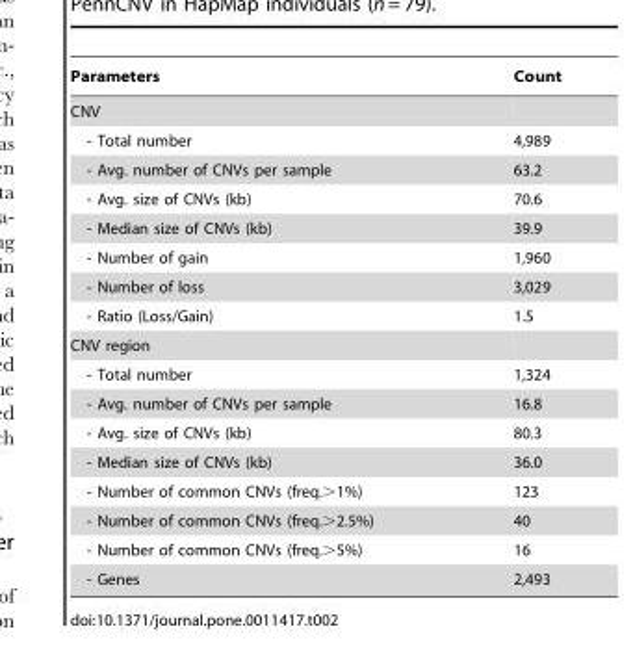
<table><thead><tr><td>Parameters</td><td>Count</td></tr></thead><tbody><tr><td colspan="2">CNV</td></tr><tr><td>- Total number</td><td>4,989</td></tr><tr><td>- Avg. number of CNVs per sample</td><td>63.2</td></tr><tr><td>- Avg. size of CNVs (kb)</td><td>70.6</td></tr><tr><td>- Median size of CNVs (kb)</td><td>39.9</td></tr><tr><td>- Number of gain</td><td>1,960</td></tr><tr><td>- Number of loss</td><td>3,029</td></tr><tr><td>- Ratio (Loss/Gain)</td><td>1.5</td></tr><tr><td colspan="2">CNV region</td></tr><tr><td>- Total number</td><td>1,324</td></tr><tr><td>- Avg. number of CNVs per sample</td><td>16.8</td></tr><tr><td>- Avg. size of CNVs (kb)</td><td>80.3</td></tr><tr><td>- Median size of CNVs (kb)</td><td>36.0</td></tr><tr><td>- Number of common CNVs (freq.&gt;1%)</td><td>123</td></tr><tr><td>- Number of common CNVs (freq.&gt;2.5%)</td><td>40</td></tr><tr><td>- Number of common CNVs (freq.&gt;5%)</td><td>16</td></tr><tr><td>- Genes</td><td>2,493</td></tr></tbody></table>